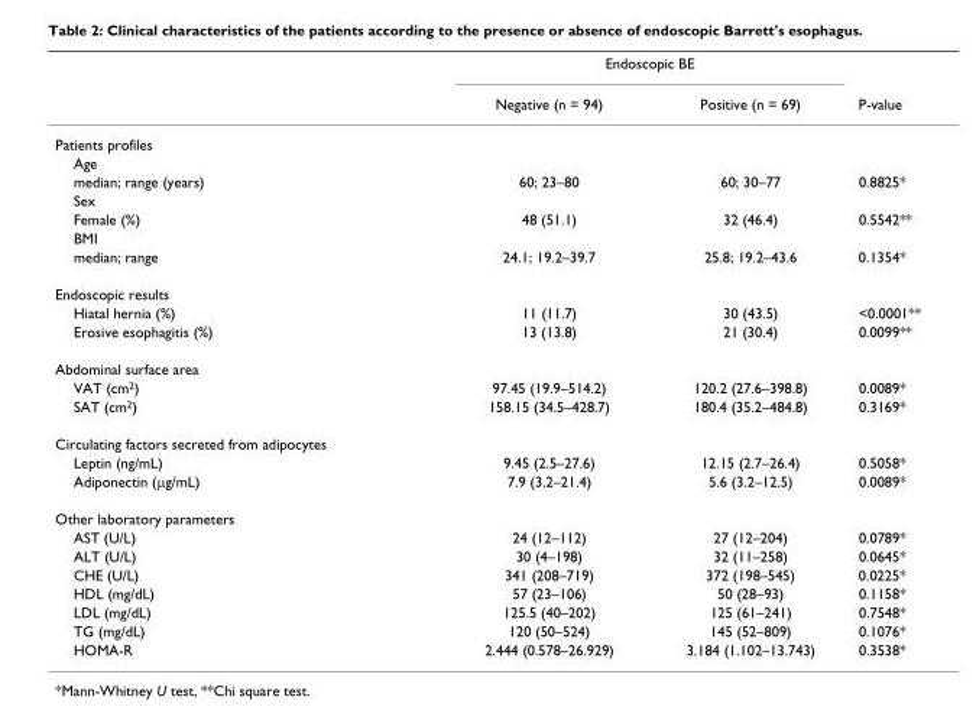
<table><thead><tr><td rowspan="2"></td><td colspan="2">Endoscopic BE</td><td rowspan="2">P-value</td></tr><tr><td>Negative (n = 94)</td><td>Positive (n = 69)</td></tr></thead><tbody><tr><td colspan="4">Patients profiles</td></tr><tr><td colspan="4">Age</td></tr><tr><td>median; range (years)</td><td>60; 23–80</td><td>60; 30–77</td><td>0.8825*</td></tr><tr><td colspan="4">Sex</td></tr><tr><td>Female (%)</td><td>48 (51.1)</td><td>32 (46.4)</td><td>0.5542**</td></tr><tr><td colspan="4">BMI</td></tr><tr><td>median; range</td><td>24.1; 19.2–39.7</td><td>25.8; 19.2–43.6</td><td>0.1354*</td></tr><tr><td colspan="4">Endoscopic results</td></tr><tr><td>Hiatal hernia (%)</td><td>11 (11.7)</td><td>30 (43.5)</td><td>&lt;0.0001**</td></tr><tr><td>Erosive esophagitis (%)</td><td>13 (13.8)</td><td>21 (30.4)</td><td>0.0099**</td></tr><tr><td colspan="4">Abdominal surface area</td></tr><tr><td>VAT (cm<sup>2</sup>)</td><td>97.45 (19.9–514.2)</td><td>120.2 (27.6–398.8)</td><td>0.0089*</td></tr><tr><td>SAT (cm<sup>2</sup>)</td><td>158.15 (34.5–428.7)</td><td>180.4 (35.2–484.8)</td><td>0.3169*</td></tr><tr><td colspan="4">Circulating factors secreted from adipocytes</td></tr><tr><td>Leptin (ng/mL)</td><td>9.45 (2.5–27.6)</td><td>12.15 (2.7–26.4)</td><td>0.5058*</td></tr><tr><td>Adiponectin (μg/mL)</td><td>7.9 (3.2–21.4)</td><td>5.6 (3.2–12.5)</td><td>0.0089*</td></tr><tr><td colspan="4">Other laboratory parameters</td></tr><tr><td>AST (U/L)</td><td>24 (12–112)</td><td>27 (12–204)</td><td>0.0789*</td></tr><tr><td>ALT (U/L)</td><td>30 (4–198)</td><td>32 (11–258)</td><td>0.0645*</td></tr><tr><td>CHE (U/L)</td><td>341 (208–719)</td><td>372 (198–545)</td><td>0.0225*</td></tr><tr><td>HDL (mg/dL)</td><td>57 (23–106)</td><td>50 (28–93)</td><td>0.1158*</td></tr><tr><td>LDL (mg/dL)</td><td>125.5 (40–202)</td><td>125 (61–241)</td><td>0.7548*</td></tr><tr><td>TG (mg/dL)</td><td>120 (50–524)</td><td>145 (52–809)</td><td>0.1076*</td></tr><tr><td>HOMA-R</td><td>2.444 (0.578–26.929)</td><td>3.184 (1.102–13.743)</td><td>0.3538*</td></tr></tbody></table>